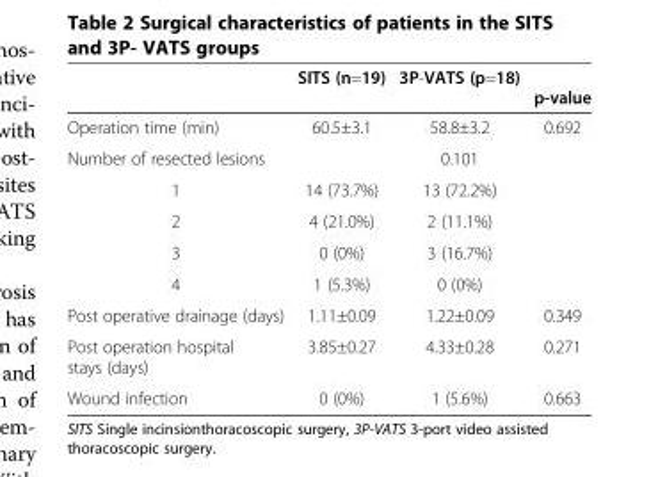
<table><thead><tr><td></td><td>SITS (n=19)</td><td>3P-VATS (p=18)</td><td>p-value</td></tr></thead><tbody><tr><td>Operation time (min)</td><td>60.5±3.1</td><td>58.8±3.2</td><td>0.692</td></tr><tr><td>Number of resected lesions</td><td></td><td>0.101</td><td></td></tr><tr><td>1</td><td>14 (73.7%)</td><td>13 (72.2%)</td><td></td></tr><tr><td>2</td><td>4 (21.0%)</td><td>2 (11.1%)</td><td></td></tr><tr><td>3</td><td>0 (0%)</td><td>3 (16.7%)</td><td></td></tr><tr><td>4</td><td>1 (5.3%)</td><td>0 (0%)</td><td></td></tr><tr><td>Post operative drainage (days)</td><td>1.11±0.09</td><td>1.22±0.09</td><td>0.349</td></tr><tr><td>Post operation hospital stays (days)</td><td>3.85±0.27</td><td>4.33±0.28</td><td>0.271</td></tr><tr><td>Wound infection</td><td>0 (0%)</td><td>1 (5.6%)</td><td>0.663</td></tr></tbody></table>